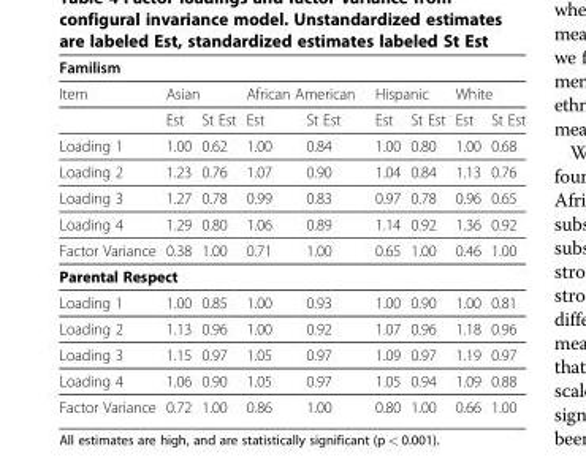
<table><thead><tr><td colspan="9">Familism</td></tr><tr><td rowspan="2">Item</td><td colspan="2">Asian</td><td colspan="2">African American</td><td colspan="2">Hispanic</td><td colspan="2">White</td></tr><tr><td>Est</td><td>St Est</td><td>Est</td><td>St Est</td><td>Est</td><td>St Est</td><td>Est</td><td>St Est</td></tr></thead><tbody><tr><td>Loading 1</td><td>1.00</td><td>0.62</td><td>1.00</td><td>0.84</td><td>1.00</td><td>0.80</td><td>1.00</td><td>0.68</td></tr><tr><td>Loading 2</td><td>1.23</td><td>0.76</td><td>1.07</td><td>0.90</td><td>1.04</td><td>0.84</td><td>1.13</td><td>0.76</td></tr><tr><td>Loading 3</td><td>1.27</td><td>0.78</td><td>0.99</td><td>0.83</td><td>0.97</td><td>0.78</td><td>0.96</td><td>0.65</td></tr><tr><td>Loading 4</td><td>1.29</td><td>0.80</td><td>1.06</td><td>0.89</td><td>1.14</td><td>0.92</td><td>1.36</td><td>0.92</td></tr><tr><td>Factor Variance</td><td>0.38</td><td>1.00</td><td>0.71</td><td>1.00</td><td>0.65</td><td>1.00</td><td>0.46</td><td>1.00</td></tr><tr><td colspan="9">Parental Respect</td></tr><tr><td>Loading 1</td><td>1.00</td><td>0.85</td><td>1.00</td><td>0.93</td><td>1.00</td><td>0.90</td><td>1.00</td><td>0.81</td></tr><tr><td>Loading 2</td><td>1.13</td><td>0.96</td><td>1.00</td><td>0.92</td><td>1.07</td><td>0.96</td><td>1.18</td><td>0.96</td></tr><tr><td>Loading 3</td><td>1.15</td><td>0.97</td><td>1.05</td><td>0.97</td><td>1.09</td><td>0.97</td><td>1.19</td><td>0.97</td></tr><tr><td>Loading 4</td><td>1.06</td><td>0.90</td><td>1.05</td><td>0.97</td><td>1.05</td><td>0.94</td><td>1.09</td><td>0.88</td></tr><tr><td>Factor Variance</td><td>0.72</td><td>1.00</td><td>0.86</td><td>1.00</td><td>0.80</td><td>1.00</td><td>0.66</td><td>1.00</td></tr></tbody></table>